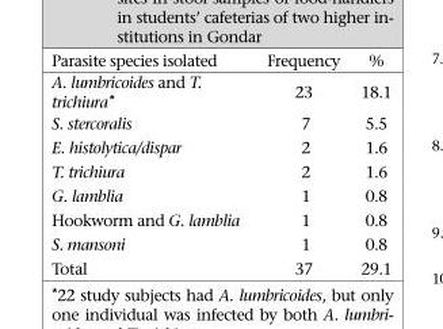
<table><thead><tr><td>Parasite species isolated</td><td>Frequency</td><td>%</td></tr></thead><tbody><tr><td>A. lumbricoides and T. trichiura*</td><td>23</td><td>18.1</td></tr><tr><td>S. stercoralis</td><td>7</td><td>5.5</td></tr><tr><td>E. histolytica/dispar</td><td>2</td><td>1.6</td></tr><tr><td>T. trichiura</td><td>2</td><td>1.6</td></tr><tr><td>G. lamblia</td><td>1</td><td>0.8</td></tr><tr><td>Hookworm and G. lamblia</td><td>1</td><td>0.8</td></tr><tr><td>S. mansoni</td><td>1</td><td>0.8</td></tr><tr><td>Total</td><td>37</td><td>29.1</td></tr></tbody></table>